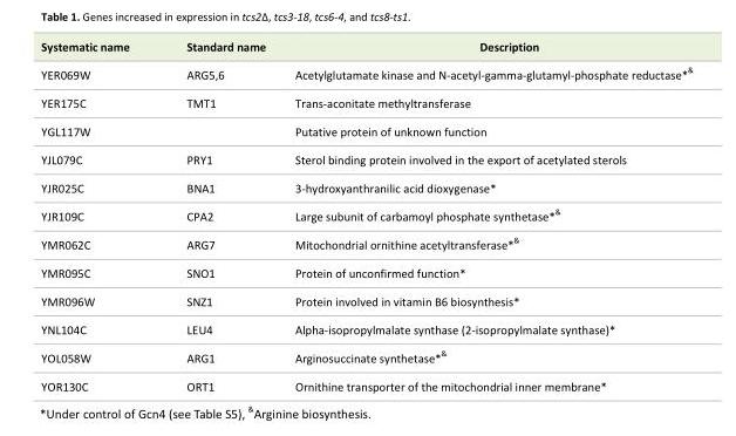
<table><thead><tr><td>Systematic name</td><td>Standard name</td><td>Description</td></tr></thead><tbody><tr><td>YER069W</td><td>ARG5,6</td><td>Acetylglutamate kinase and N-acetyl-gamma-glutamyl-phosphate reductase*<sup>&amp;</sup></td></tr><tr><td>YER175C</td><td>TMT1</td><td>Trans-aconitate methyltransferase</td></tr><tr><td>YGL117W</td><td></td><td>Putative protein of unknown function</td></tr><tr><td>YJL079C</td><td>PRY1</td><td>Sterol binding protein involved in the export of acetylated sterols</td></tr><tr><td>YJR025C</td><td>BNA1</td><td>3-hydroxyanthranilic acid dioxygenase*</td></tr><tr><td>YJR109C</td><td>CPA2</td><td>Large subunit of carbamoyl phosphate synthetase*<sup>&amp;</sup></td></tr><tr><td>YMR062C</td><td>ARG7</td><td>Mitochondrial ornithine acetyltransferase*<sup>&amp;</sup></td></tr><tr><td>YMR095C</td><td>SNO1</td><td>Protein of unconfirmed function*</td></tr><tr><td>YMR096W</td><td>SNZ1</td><td>Protein involved in vitamin B6 biosynthesis*</td></tr><tr><td>YNL104C</td><td>LEU4</td><td>Alpha-isopropylmalate synthase (2-isopropylmalate synthase)*</td></tr><tr><td>YOL058W</td><td>ARG1</td><td>Arginosuccinate synthetase*<sup>&amp;</sup></td></tr><tr><td>YOR130C</td><td>ORT1</td><td>Ornithine transporter of the mitochondrial inner membrane*</td></tr></tbody></table>